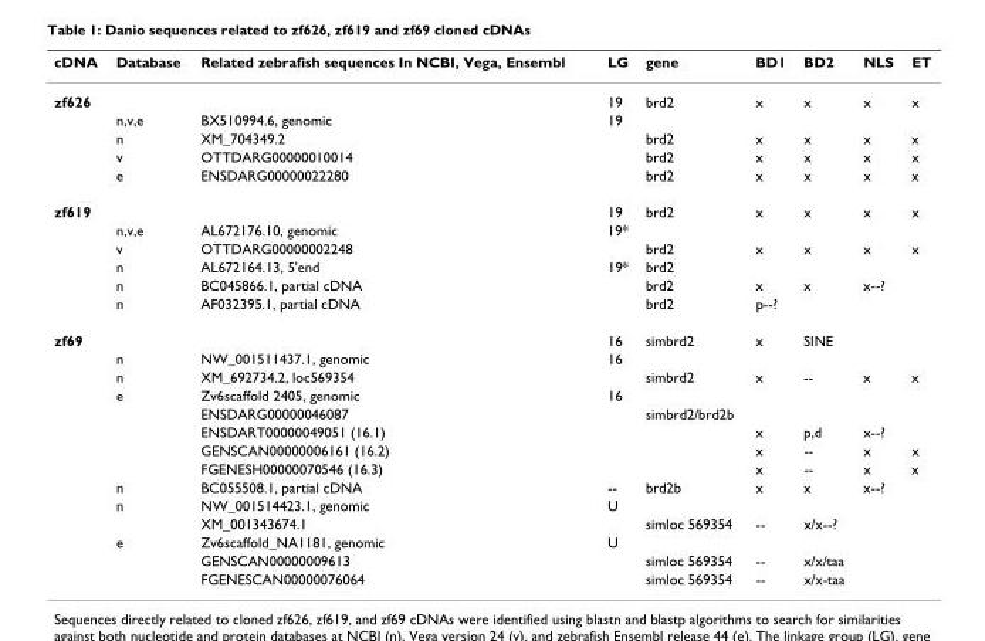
<table><thead><tr><td>cDNA</td><td>Database</td><td>Related zebrafish sequences In NCBI, Vega, Ensembl</td><td>LG</td><td>gene</td><td>BD1</td><td>BD2</td><td>NLS</td><td>ET</td></tr></thead><tbody><tr><td rowspan="5">zf626</td><td></td><td></td><td>19</td><td>brd2</td><td>x</td><td>x</td><td>x</td><td>x</td></tr><tr><td>n,v,e</td><td>BX510994.6, genomic</td><td>19</td><td></td><td></td><td></td><td></td><td></td></tr><tr><td>n</td><td>XM_704349.2</td><td></td><td>brd2</td><td>x</td><td>x</td><td>x</td><td>x</td></tr><tr><td>v</td><td>OTTDARG00000010014</td><td></td><td>brd2</td><td>x</td><td>x</td><td>x</td><td>x</td></tr><tr><td>e</td><td>ENSDARG00000022280</td><td></td><td>brd2</td><td>x</td><td>x</td><td>x</td><td>x</td></tr><tr><td rowspan="6">zf619</td><td></td><td></td><td>19</td><td>brd2</td><td>x</td><td>x</td><td>x</td><td>x</td></tr><tr><td>n,v,e</td><td>AL672176.10, genomic</td><td>19*</td><td></td><td></td><td></td><td></td><td></td></tr><tr><td>v</td><td>OTTDARG00000002248</td><td></td><td>brd2</td><td>x</td><td>x</td><td>x</td><td>x</td></tr><tr><td>n</td><td>AL672164.13, 5&#x27;end</td><td>19*</td><td>brd2</td><td></td><td></td><td></td><td></td></tr><tr><td>n</td><td>BC045866.1, partial cDNA</td><td></td><td>brd2</td><td>x</td><td>x</td><td>x--?</td><td></td></tr><tr><td>n</td><td>AF032395.1, partial cDNA</td><td></td><td>brd2</td><td>p--?</td><td></td><td></td><td></td></tr><tr><td rowspan="14">zf69</td><td></td><td></td><td>16</td><td>simbrd2</td><td>x</td><td>SINE</td><td></td><td></td></tr><tr><td>n</td><td>NW_001511437.1, genomic</td><td>16</td><td></td><td></td><td></td><td></td><td></td></tr><tr><td>n</td><td>XM_692734.2, loc569354</td><td></td><td>simbrd2</td><td>x</td><td>--</td><td>x</td><td>x</td></tr><tr><td>e</td><td>Zv6scaffold 2405, genomic</td><td>16</td><td></td><td></td><td></td><td></td><td></td></tr><tr><td></td><td>ENSDARG00000046087</td><td></td><td>simbrd2/brd2b</td><td></td><td></td><td></td><td></td></tr><tr><td></td><td>ENSDART00000049051 (16.1)</td><td></td><td></td><td>x</td><td>p,d</td><td>x--?</td><td></td></tr><tr><td></td><td>GENSCAN00000006161 (16.2)</td><td></td><td></td><td>x</td><td>--</td><td>x</td><td>x</td></tr><tr><td></td><td>FGENESH00000070546 (16.3)</td><td></td><td></td><td>x</td><td>--</td><td>x</td><td>x</td></tr><tr><td>n</td><td>BC055508.1, partial cDNA</td><td>--</td><td>brd2b</td><td>x</td><td>x</td><td>x--?</td><td></td></tr><tr><td>n</td><td>NW_001514423.1, genomic</td><td>U</td><td></td><td></td><td></td><td></td><td></td></tr><tr><td></td><td>XM_001343674.1</td><td></td><td>simloc 569354</td><td>--</td><td>x/x--?</td><td></td><td></td></tr><tr><td>e</td><td>Zv6scaffold_NA1181, genomic</td><td>U</td><td></td><td></td><td></td><td></td><td></td></tr><tr><td></td><td>GENSCAN00000009613</td><td></td><td>simloc 569354</td><td>--</td><td>x/x/taa</td><td></td><td></td></tr><tr><td></td><td>FGENESCAN00000076064</td><td></td><td>simloc 569354</td><td>--</td><td>x/x-taa</td><td></td><td></td></tr></tbody></table>